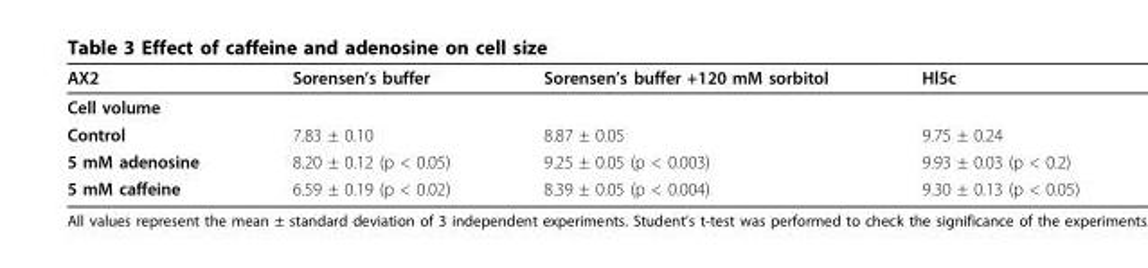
<table><thead><tr><td>AX2</td><td>Sorensen’s buffer</td><td>Sorensen’s buffer +120 mM sorbitol</td><td>Hl5c</td></tr></thead><tbody><tr><td colspan="4">Cell volume</td></tr><tr><td>Control</td><td>7.83 ± 0.10</td><td>8.87 ± 0.05</td><td>9.75 ± 0.24</td></tr><tr><td>5 mM adenosine</td><td>8.20 ± 0.12 (p &lt; 0.05)</td><td>9.25 ± 0.05 (p &lt; 0.003)</td><td>9.93 ± 0.03 (p &lt; 0.2)</td></tr><tr><td>5 mM caffeine</td><td>6.59 ± 0.19 (p &lt; 0.02)</td><td>8.39 ± 0.05 (p &lt; 0.004)</td><td>9.30 ± 0.13 (p &lt; 0.05)</td></tr></tbody></table>